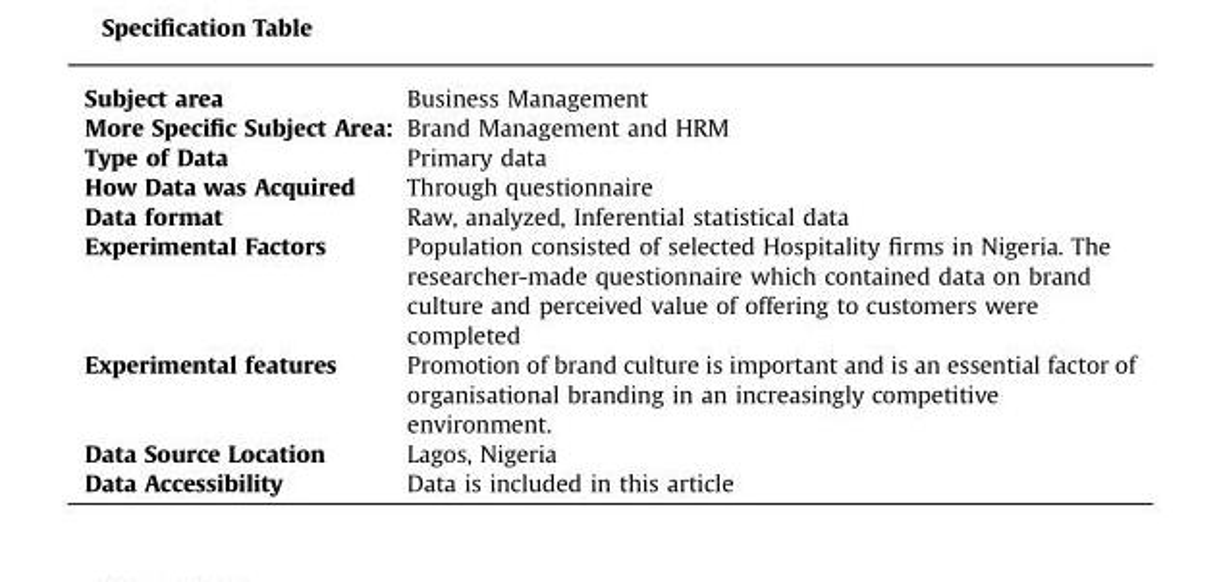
<table><tbody><tr><td>Subject area</td><td>Business Management</td></tr><tr><td>More Specific Subject Area:</td><td>Brand Management and HRM</td></tr><tr><td>Type of Data</td><td>Primary data</td></tr><tr><td>How Data was Acquired</td><td>Through questionnaire</td></tr><tr><td>Data format</td><td>Raw, analyzed, Inferential statistical data</td></tr><tr><td>Experimental Factors</td><td>Population consisted of selected Hospitality firms in Nigeria. The researcher-made questionnaire which contained data on brand culture and perceived value of offering to customers were completed</td></tr><tr><td>Experimental features</td><td>Promotion of brand culture is important and is an essential factor of organisational branding in an increasingly competitive environment.</td></tr><tr><td>Data Source Location</td><td>Lagos, Nigeria</td></tr><tr><td>Data Accessibility</td><td>Data is included in this article</td></tr></tbody></table>